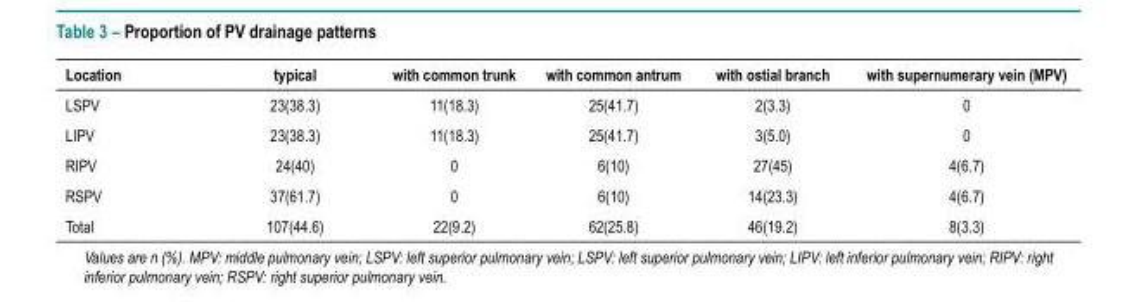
<table><thead><tr><td>Location</td><td>typical</td><td>with common trunk</td><td>with common antrum</td><td>with ostial branch</td><td>with supernumerary vein (MPV)</td></tr></thead><tbody><tr><td>LSPV</td><td>23(38.3)</td><td>11(18.3)</td><td>25(41.7)</td><td>2(3.3)</td><td>0</td></tr><tr><td>LIPV</td><td>23(38.3)</td><td>11(18.3)</td><td>25(41.7)</td><td>3(5.0)</td><td>0</td></tr><tr><td>RIPV</td><td>24(40)</td><td>0</td><td>6(10)</td><td>27(45)</td><td>4(6.7)</td></tr><tr><td>RSPV</td><td>37(61.7)</td><td>0</td><td>6(10)</td><td>14(23.3)</td><td>4(6.7)</td></tr><tr><td>Total</td><td>107(44.6)</td><td>22(9.2)</td><td>62(25.8)</td><td>46(19.2)</td><td>8(3.3)</td></tr></tbody></table>